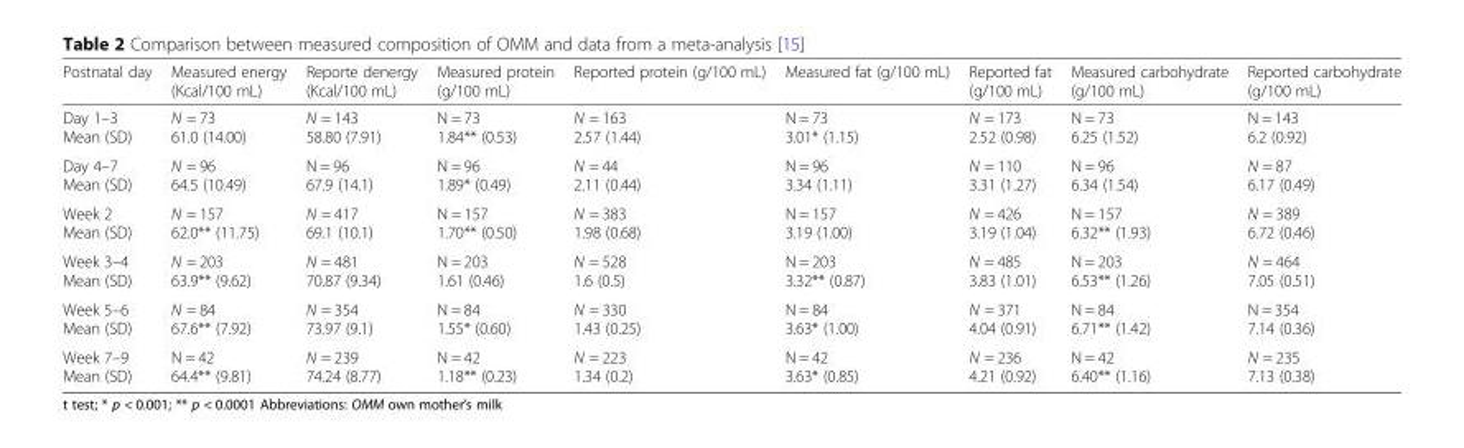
<table><thead><tr><td>Postnatal day</td><td>Measured energy (Kcal/100 mL)</td><td>Reporte denergy (Kcal/100 mL)</td><td>Measured protein (g/100 mL)</td><td>Reported protein (g/100 mL)</td><td>Measured fat (g/100 mL)</td><td>Reported fat (g/100 mL)</td><td>Measured carbohydrate (g/100 mL)</td><td>Reported carbohydrate (g/100 mL)</td></tr></thead><tbody><tr><td>Day 1–3 Mean (SD)</td><td>N = 73 61.0 (14.00)</td><td>N = 143 58.80 (7.91)</td><td>N = 73 1.84** (0.53)</td><td>N = 163 2.57 (1.44)</td><td>N = 73 3.01* (1.15)</td><td>N = 173 2.52 (0.98)</td><td>N = 73 6.25 (1.52)</td><td>N = 143 6.2 (0.92)</td></tr><tr><td>Day 4–7 Mean (SD)</td><td>N = 96 64.5 (10.49)</td><td>N = 96 67.9 (14.1)</td><td>N = 96 1.89* (0.49)</td><td>N = 44 2.11 (0.44)</td><td>N = 96 3.34 (1.11)</td><td>N = 110 3.31 (1.27)</td><td>N = 96 6.34 (1.54)</td><td>N = 87 6.17 (0.49)</td></tr><tr><td>Week 2 Mean (SD)</td><td>N = 157 62.0** (11.75)</td><td>N = 417 69.1 (10.1)</td><td>N = 157 1.70** (0.50)</td><td>N = 383 1.98 (0.68)</td><td>N = 157 3.19 (1.00)</td><td>N = 426 3.19 (1.04)</td><td>N = 157 6.32** (1.93)</td><td>N = 389 6.72 (0.46)</td></tr><tr><td>Week 3–4 Mean (SD)</td><td>N = 203 63.9** (9.62)</td><td>N = 481 70.87 (9.34)</td><td>N = 203 1.61 (0.46)</td><td>N = 528 1.6 (0.5)</td><td>N = 203 3.32** (0.87)</td><td>N = 485 3.83 (1.01)</td><td>N = 203 6.53** (1.26)</td><td>N = 464 7.05 (0.51)</td></tr><tr><td>Week 5–6 Mean (SD)</td><td>N = 84 67.6** (7.92)</td><td>N = 354 73.97 (9.1)</td><td>N = 84 1.55* (0.60)</td><td>N = 330 1.43 (0.25)</td><td>N = 84 3.63* (1.00)</td><td>N = 371 4.04 (0.91)</td><td>N = 84 6.71** (1.42)</td><td>N = 354 7.14 (0.36)</td></tr><tr><td>Week 7–9 Mean (SD)</td><td>N = 42 64.4** (9.81)</td><td>N = 239 74.24 (8.77)</td><td>N = 42 1.18** (0.23)</td><td>N = 223 1.34 (0.2)</td><td>N = 42 3.63* (0.85)</td><td>N = 236 4.21 (0.92)</td><td>N = 42 6.40** (1.16)</td><td>N = 235 7.13 (0.38)</td></tr></tbody></table>